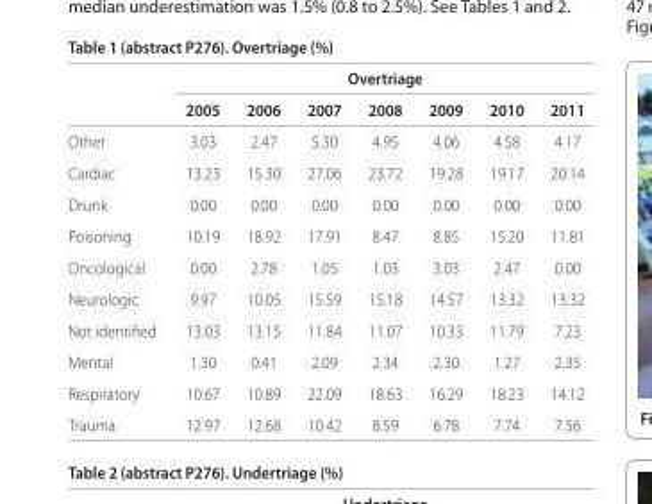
<table><thead><tr><td rowspan="2"></td><td colspan="7">Overtriage</td></tr><tr><td>2005</td><td>2006</td><td>2007</td><td>2008</td><td>2009</td><td>2010</td><td>2011</td></tr></thead><tbody><tr><td>Other</td><td>3.03</td><td>2.47</td><td>5.30</td><td>4.95</td><td>4.06</td><td>4.58</td><td>4.17</td></tr><tr><td>Cardiac</td><td>13.23</td><td>15.30</td><td>27.06</td><td>23.72</td><td>19.28</td><td>19.17</td><td>20.14</td></tr><tr><td>Drunk</td><td>0.00</td><td>0.00</td><td>0.00</td><td>0.00</td><td>0.00</td><td>0.00</td><td>0.00</td></tr><tr><td>Poisoning</td><td>10.19</td><td>18.92</td><td>17.91</td><td>8.47</td><td>8.85</td><td>15.20</td><td>11.81</td></tr><tr><td>Oncological</td><td>0.00</td><td>2.78</td><td>1.05</td><td>1.03</td><td>3.03</td><td>2.47</td><td>0.00</td></tr><tr><td>Neurologic</td><td>9.97</td><td>10.05</td><td>15.59</td><td>15.18</td><td>14.57</td><td>13.32</td><td>13.32</td></tr><tr><td>Not identifi ed</td><td>13.03</td><td>13.15</td><td>11.84</td><td>11.07</td><td>10.33</td><td>11.79</td><td>7.23</td></tr><tr><td>Mental</td><td>1.30</td><td>0.41</td><td>2.09</td><td>2.34</td><td>2.30</td><td>1.27</td><td>2.35</td></tr><tr><td>Respiratory</td><td>10.67</td><td>10.89</td><td>22.09</td><td>18.63</td><td>16.29</td><td>18.23</td><td>14.12</td></tr><tr><td>Trauma</td><td>12.97</td><td>12.68</td><td>10.42</td><td>8.59</td><td>6.78</td><td>7.74</td><td>7.56</td></tr></tbody></table>